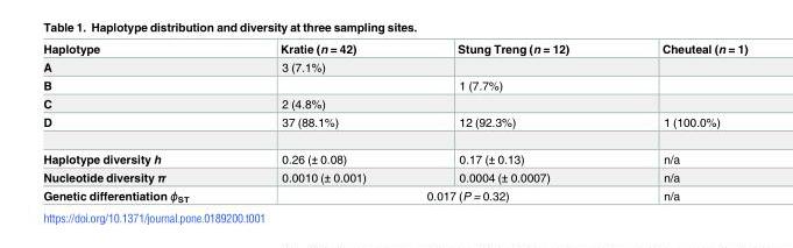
<table><thead><tr><td>Haplotype</td><td>Kratie (n = 42)</td><td>Stung Treng (n = 12)</td><td>Cheuteal (n = 1)</td></tr></thead><tbody><tr><td>A</td><td>3 (7.1%)</td><td></td><td></td></tr><tr><td>B</td><td></td><td>1 (7.7%)</td><td></td></tr><tr><td>C</td><td>2 (4.8%)</td><td></td><td></td></tr><tr><td>D</td><td>37 (88.1%)</td><td>12 (92.3%)</td><td>1 (100.0%)</td></tr><tr><td>Haplotype diversity h</td><td>0.26 (± 0.08)</td><td>0.17 (± 0.13)</td><td>n/a</td></tr><tr><td>Nucleotide diversity π</td><td>0.0010 (± 0.001)</td><td>0.0004 (± 0.0007)</td><td>n/a</td></tr><tr><td>Genetic differentiation ɸ<sub>ST</sub></td><td colspan="2">0.017 (P = 0.32)</td><td>n/a</td></tr></tbody></table>